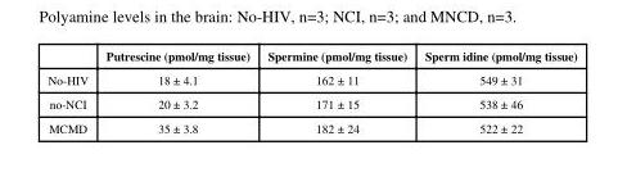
<table><thead><tr><td></td><td>Putrescine (pmol/mg tissue)</td><td>Spermine (pmol/mg tissue)</td><td>Sperm idine (pmol/mg tissue)</td></tr></thead><tbody><tr><td>No-HIV</td><td>18 ± 4.1</td><td>162 ± 11</td><td>549 ± 31</td></tr><tr><td>no-NCI</td><td>20 ± 3.2</td><td>171 ± 15</td><td>538 ± 46</td></tr><tr><td>MCMD</td><td>35 ± 3.8</td><td>182 ± 24</td><td>522 ± 22</td></tr></tbody></table>